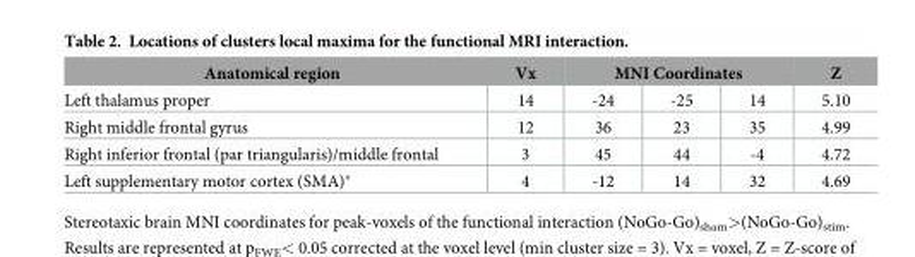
<table><thead><tr><td rowspan="2">Anatomical region Left thalamus proper</td><td rowspan="2">Vx 14</td><td colspan="3">MNI Coordinates</td><td rowspan="2">Z 5.10</td></tr><tr><td>-24</td><td>-25</td><td>14</td></tr></thead><tbody><tr><td>Right middle frontal gyrus</td><td>12</td><td>36</td><td>23</td><td>35</td><td>4.99</td></tr><tr><td>Right inferior frontal (par triangularis)/middle frontal</td><td>3</td><td>45</td><td>44</td><td>-4</td><td>4.72</td></tr><tr><td>Left supplementary motor cortex (SMA)*</td><td>4</td><td>-12</td><td>14</td><td>32</td><td>4.69</td></tr></tbody></table>